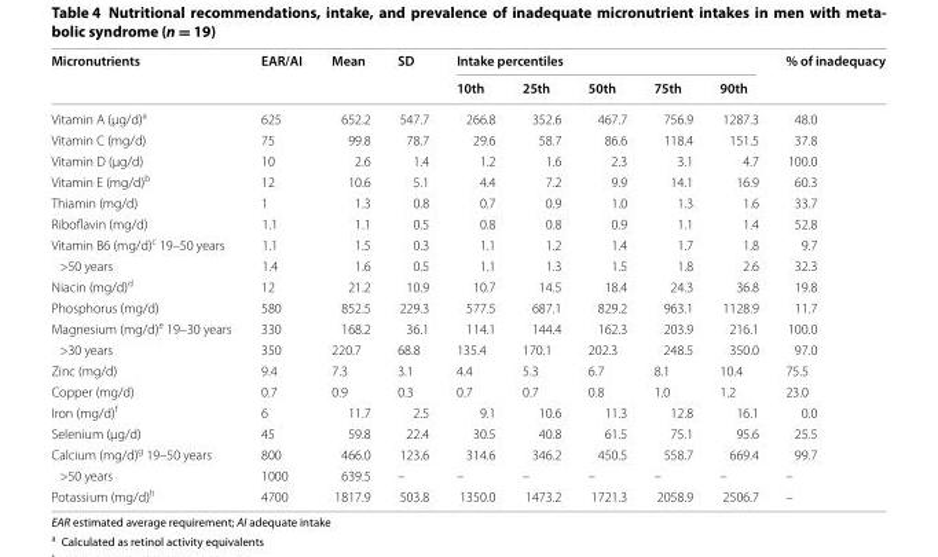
<table><thead><tr><td rowspan="2">Micronutrients</td><td rowspan="2">EAR/AI</td><td rowspan="2">Mean</td><td rowspan="2">SD</td><td colspan="5">Intake percentiles</td><td rowspan="2">% of inadequacy</td></tr><tr><td>10th</td><td>25th</td><td>50th</td><td>75th</td><td>90th</td></tr></thead><tbody><tr><td>Vitamin A (μg/d)<sup>a</sup></td><td>625</td><td>652.2</td><td>547.7</td><td>266.8</td><td>352.6</td><td>467.7</td><td>756.9</td><td>1287.3</td><td>48.0</td></tr><tr><td>Vitamin C (mg/d)</td><td>75</td><td>99.8</td><td>78.7</td><td>29.6</td><td>58.7</td><td>86.6</td><td>118.4</td><td>151.5</td><td>37.8</td></tr><tr><td>Vitamin D (μg/d)</td><td>10</td><td>2.6</td><td>1.4</td><td>1.2</td><td>1.6</td><td>2.3</td><td>3.1</td><td>4.7</td><td>100.0</td></tr><tr><td>Vitamin E (mg/d)<sup>b</sup></td><td>12</td><td>10.6</td><td>5.1</td><td>4.4</td><td>7.2</td><td>9.9</td><td>14.1</td><td>16.9</td><td>60.3</td></tr><tr><td>Thiamin (mg/d)</td><td>1</td><td>1.3</td><td>0.8</td><td>0.7</td><td>0.9</td><td>1.0</td><td>1.3</td><td>1.6</td><td>33.7</td></tr><tr><td>Riboflavin (mg/d)</td><td>1.1</td><td>1.1</td><td>0.5</td><td>0.8</td><td>0.8</td><td>0.9</td><td>1.1</td><td>1.4</td><td>52.8</td></tr><tr><td>Vitamin B6 (mg/d)<sup>c</sup> 19–50 years</td><td>1.1</td><td>1.5</td><td>0.3</td><td>1.1</td><td>1.2</td><td>1.4</td><td>1.7</td><td>1.8</td><td>9.7</td></tr><tr><td>&gt;50 years</td><td>1.4</td><td>1.6</td><td>0.5</td><td>1.1</td><td>1.3</td><td>1.5</td><td>1.8</td><td>2.6</td><td>32.3</td></tr><tr><td>Niacin (mg/d)<sup>d</sup></td><td>12</td><td>21.2</td><td>10.9</td><td>10.7</td><td>14.5</td><td>18.4</td><td>24.3</td><td>36.8</td><td>19.8</td></tr><tr><td>Phosphorus (mg/d)</td><td>580</td><td>852.5</td><td>229.3</td><td>577.5</td><td>687.1</td><td>829.2</td><td>963.1</td><td>1128.9</td><td>11.7</td></tr><tr><td>Magnesium (mg/d)<sup>e</sup> 19–30 years</td><td>330</td><td>168.2</td><td>36.1</td><td>114.1</td><td>144.4</td><td>162.3</td><td>203.9</td><td>216.1</td><td>100.0</td></tr><tr><td>&gt;30 years</td><td>350</td><td>220.7</td><td>68.8</td><td>135.4</td><td>170.1</td><td>202.3</td><td>248.5</td><td>350.0</td><td>97.0</td></tr><tr><td>Zinc (mg/d)</td><td>9.4</td><td>7.3</td><td>3.1</td><td>4.4</td><td>5.3</td><td>6.7</td><td>8.1</td><td>10.4</td><td>75.5</td></tr><tr><td>Copper (mg/d)</td><td>0.7</td><td>0.9</td><td>0.3</td><td>0.7</td><td>0.7</td><td>0.8</td><td>1.0</td><td>1.2</td><td>23.0</td></tr><tr><td>Iron (mg/d)<sup>f</sup></td><td>6</td><td>11.7</td><td>2.5</td><td>9.1</td><td>10.6</td><td>11.3</td><td>12.8</td><td>16.1</td><td>0.0</td></tr><tr><td>Selenium (μg/d)</td><td>45</td><td>59.8</td><td>22.4</td><td>30.5</td><td>40.8</td><td>61.5</td><td>75.1</td><td>95.6</td><td>25.5</td></tr><tr><td>Calcium (mg/d)<sup>g</sup> 19–50 years</td><td>800</td><td>466.0</td><td>123.6</td><td>314.6</td><td>346.2</td><td>450.5</td><td>558.7</td><td>669.4</td><td>99.7</td></tr><tr><td>&gt;50 years</td><td>1000</td><td>639.5</td><td>–</td><td>–</td><td>–</td><td>–</td><td>–</td><td>–</td><td>–</td></tr><tr><td>Potassium (mg/d)<sup>h</sup></td><td>4700</td><td>1817.9</td><td>503.8</td><td>1350.0</td><td>1473.2</td><td>1721.3</td><td>2058.9</td><td>2506.7</td><td>–</td></tr></tbody></table>